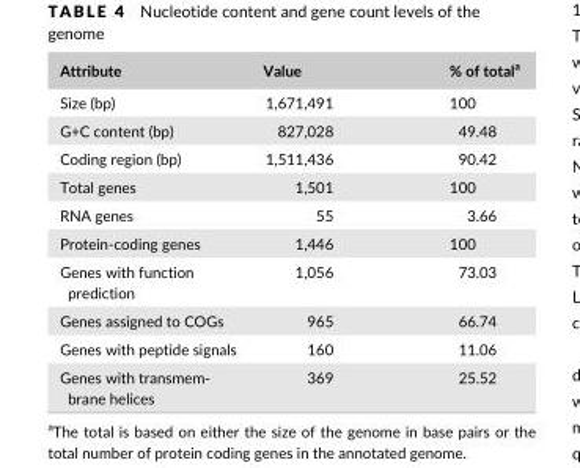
<table><thead><tr><td>Attribute</td><td>Value</td><td>% of total<sup>a</sup></td></tr></thead><tbody><tr><td>Size (bp)</td><td>1,671,491</td><td>100</td></tr><tr><td>G+C content (bp)</td><td>827,028</td><td>49.48</td></tr><tr><td>Coding region (bp)</td><td>1,511,436</td><td>90.42</td></tr><tr><td>Total genes</td><td>1,501</td><td>100</td></tr><tr><td>RNA genes</td><td>55</td><td>3.66</td></tr><tr><td>Protein- coding genes</td><td>1,446</td><td>100</td></tr><tr><td>Genes with function prediction</td><td>1,056</td><td>73.03</td></tr><tr><td>Genes assigned to COGs</td><td>965</td><td>66.74</td></tr><tr><td>Genes with peptide signals</td><td>160</td><td>11.06</td></tr><tr><td>Genes with transmem- brane helices</td><td>369</td><td>25.52</td></tr></tbody></table>